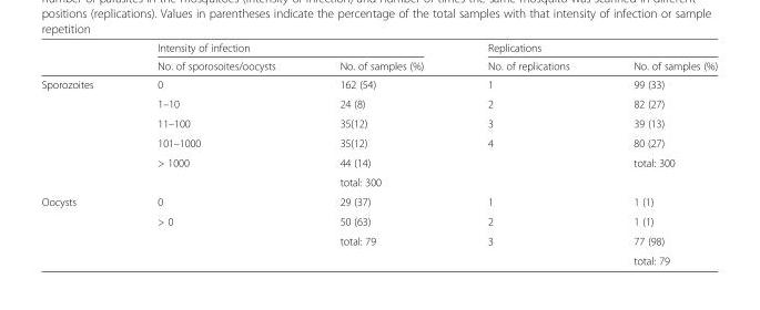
<table><thead><tr><td rowspan="2"></td><td colspan="2">Intensity of infection</td><td colspan="2">Replications</td></tr><tr><td>No. of sporosoites/oocysts</td><td>No. of samples (%)</td><td>No. of replications</td><td>No. of samples (%)</td></tr></thead><tbody><tr><td rowspan="6">Sporozoites</td><td>0</td><td>162 (54)</td><td>1</td><td>99 (33)</td></tr><tr><td>1–10</td><td>24 (8)</td><td>2</td><td>82 (27)</td></tr><tr><td>11–100</td><td>35(12)</td><td>3</td><td>39 (13)</td></tr><tr><td>101–1000</td><td>35(12)</td><td>4</td><td>80 (27)</td></tr><tr><td>&gt; 1000</td><td>44 (14)</td><td></td><td>total: 300</td></tr><tr><td></td><td>total: 300</td><td></td><td></td></tr><tr><td rowspan="4">Oocysts</td><td>0</td><td>29 (37)</td><td>1</td><td>1 (1)</td></tr><tr><td>&gt; 0</td><td>50 (63)</td><td>2</td><td>1 (1)</td></tr><tr><td></td><td>total: 79</td><td>3</td><td>77 (98)</td></tr><tr><td></td><td></td><td></td><td>total: 79</td></tr></tbody></table>